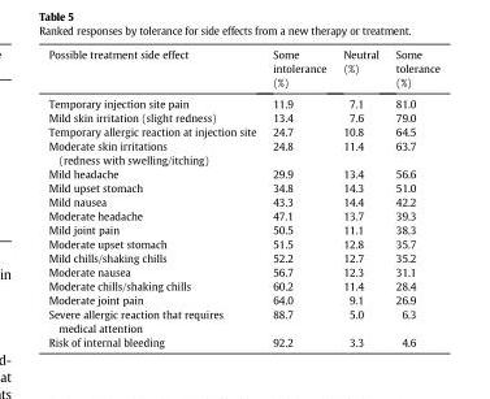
<table><thead><tr><td>Possible treatment side effect</td><td>Some intolerance (%)</td><td>Neutral (%)</td><td>Some tolerance (%)</td></tr></thead><tbody><tr><td>Temporary injection site pain</td><td>11.9</td><td>7.1</td><td>81.0</td></tr><tr><td>Mild skin irritation (slight redness)</td><td>13.4</td><td>7.6</td><td>79.0</td></tr><tr><td>Temporary allergic reaction at injection site</td><td>24.7</td><td>10.8</td><td>64.5</td></tr><tr><td>Moderate skin irritations (redness with swelling/itching)</td><td>24.8</td><td>11.4</td><td>63.7</td></tr><tr><td>Mild headache</td><td>29.9</td><td>13.4</td><td>56.6</td></tr><tr><td>Mild upset stomach</td><td>34.8</td><td>14.3</td><td>51.0</td></tr><tr><td>Mild nausea</td><td>43.3</td><td>14.4</td><td>42.2</td></tr><tr><td>Moderate headache</td><td>47.1</td><td>13.7</td><td>39.3</td></tr><tr><td>Mild joint pain</td><td>50.5</td><td>11.1</td><td>38.3</td></tr><tr><td>Moderate upset stomach</td><td>51.5</td><td>12.8</td><td>35.7</td></tr><tr><td>Mild chills/shaking chills</td><td>52.2</td><td>12.7</td><td>35.2</td></tr><tr><td>Moderate nausea</td><td>56.7</td><td>12.3</td><td>31.1</td></tr><tr><td>Moderate chills/shaking chills</td><td>60.2</td><td>11.4</td><td>28.4</td></tr><tr><td>Moderate joint pain</td><td>64.0</td><td>9.1</td><td>26.9</td></tr><tr><td>Severe allergic reaction that requires medical attention</td><td>88.7</td><td>5.0</td><td>6.3</td></tr><tr><td>Risk of internal bleeding</td><td>92.2</td><td>3.3</td><td>4.6</td></tr></tbody></table>